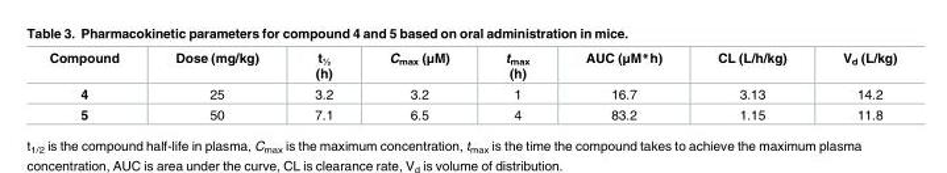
<table><thead><tr><td>Compound</td><td>Dose (mg/kg)</td><td>t<sub>½</sub> (h)</td><td>C<sub>max</sub> (μM)</td><td>t<sub>max</sub> (h)</td><td>AUC (μM*h)</td><td>CL (L/h/kg)</td><td>V<sub>d</sub> (L/kg)</td></tr></thead><tbody><tr><td>4</td><td>25</td><td>3.2</td><td>3.2</td><td>1</td><td>16.7</td><td>3.13</td><td>14.2</td></tr><tr><td>5</td><td>50</td><td>7.1</td><td>6.5</td><td>4</td><td>83.2</td><td>1.15</td><td>11.8</td></tr></tbody></table>